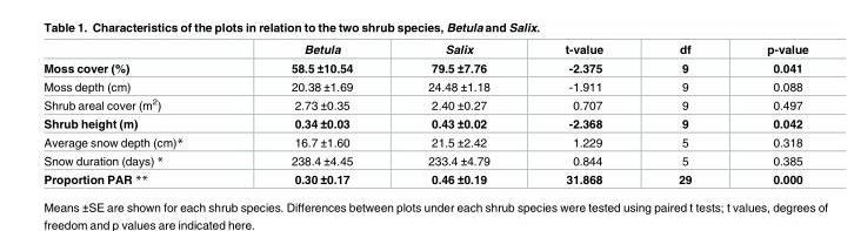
<table><thead><tr><td></td><td>Betula</td><td>Salix</td><td>t-value</td><td>df</td><td>p-value</td></tr></thead><tbody><tr><td>Moss cover (%)</td><td>58.5 ±10.54</td><td>79.5 ±7.76</td><td>-2.375</td><td>9</td><td>0.041</td></tr><tr><td>Moss depth (cm)</td><td>20.38 ±1.69</td><td>24.48 ±1.18</td><td>-1.911</td><td>9</td><td>0.088</td></tr><tr><td>Shrub areal cover (m<sup>2</sup>)</td><td>2.73 ±0.35</td><td>2.40 ±0.27</td><td>0.707</td><td>9</td><td>0.497</td></tr><tr><td>Shrub height (m)</td><td>0.34 ±0.03</td><td>0.43 ±0.02</td><td>-2.368</td><td>9</td><td>0.042</td></tr><tr><td>Average snow depth (cm)*</td><td>16.7 ±1.60</td><td>21.5 ±2.42</td><td>1.229</td><td>5</td><td>0.318</td></tr><tr><td>Snow duration (days) *</td><td>238.4 ±4.45</td><td>233.4 ±4.79</td><td>0.844</td><td>5</td><td>0.385</td></tr><tr><td>Proportion PAR **</td><td>0.30 ±0.17</td><td>0.46 ±0.19</td><td>31.868</td><td>29</td><td>0.000</td></tr></tbody></table>